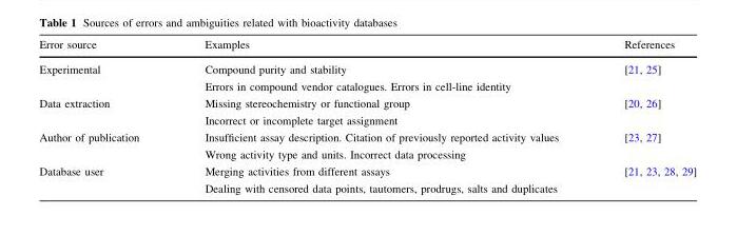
<table><thead><tr><td>Error source</td><td>Examples</td><td>References</td></tr></thead><tbody><tr><td rowspan="2">Experimental</td><td>Compound purity and stability</td><td rowspan="2">[21, 25]</td></tr><tr><td>Errors in compound vendor catalogues. Errors in cell-line identity</td></tr><tr><td rowspan="2">Data extraction</td><td>Missing stereochemistry or functional group</td><td rowspan="2">[20, 26]</td></tr><tr><td>Incorrect or incomplete target assignment</td></tr><tr><td rowspan="2">Author of publication</td><td>Insufficient assay description. Citation of previously reported activity values</td><td rowspan="2">[23, 27]</td></tr><tr><td>Wrong activity type and units. Incorrect data processing</td></tr><tr><td rowspan="2">Database user</td><td>Merging activities from different assays</td><td rowspan="2">[21, 23, 28, 29]</td></tr><tr><td>Dealing with censored data points, tautomers, prodrugs, salts and duplicates</td></tr></tbody></table>